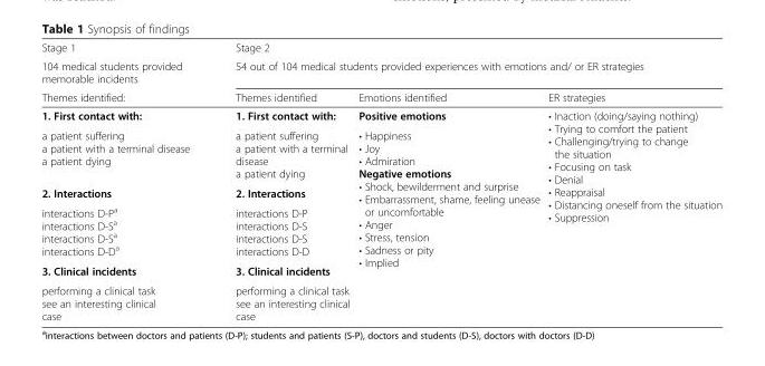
<table><thead><tr><td rowspan="3">Stage 1 104 medical students provided memorable incidents Themes identified:</td><td rowspan="2" colspan="3">Stage 2 54 out of 104 medical students provided experiences with emotions and/ or ER strategies</td></tr><tr></tr><tr><td>Themes identified</td><td>Emotions identified</td><td>ER strategies</td></tr></thead><tbody><tr><td>1. First contact with:</td><td>1. First contact with:</td><td>Positive emotions</td><td rowspan="6">• Inaction (doing/saying nothing) • Trying to comfort the patient • Challenging/trying to change the situation • Focusing on task • Denial • Reappraisal • Distancing oneself from the situation • Suppression</td></tr><tr><td>a patient suffering a patient with a terminal disease a patient dying</td><td>a patient suffering a patient with a terminal disease a patient dying</td><td rowspan="5">• Happiness • Joy • Admiration Negative emotions • Shock, bewilderment and surprise • Embarrassment, shame, feeling unease or uncomfortable • Anger • Stress, tension • Sadness or pity • Implied</td></tr><tr><td>2. Interactions</td><td>2. Interactions</td></tr><tr><td>interactions D-P<sup>a</sup> interactions D-S<sup>a</sup> interactions D-S<sup>a</sup> interactions D-D<sup>a</sup></td><td>interactions D-P interactions D-S interactions D-S interactions D-D</td></tr><tr><td>3. Clinical incidents</td><td>3. Clinical incidents</td></tr><tr><td>performing a clinical task see an interesting clinical case</td><td>performing a clinical task see an interesting clinical case</td></tr></tbody></table>